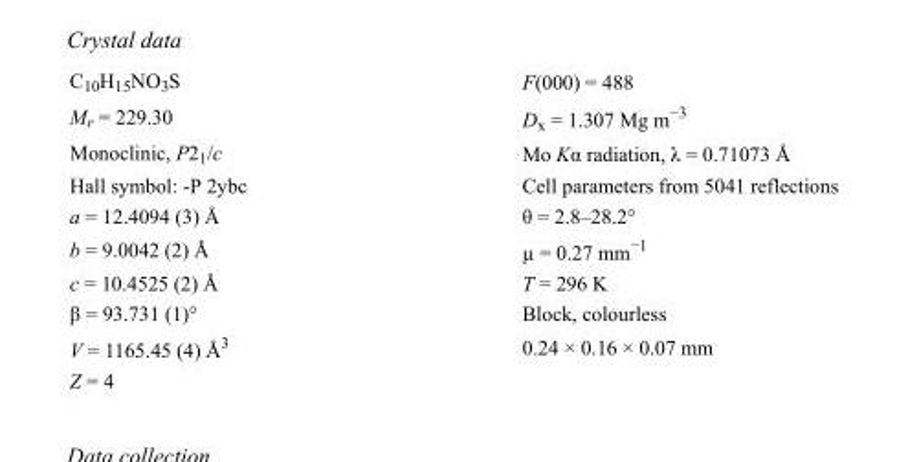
<table><tbody><tr><td>C<sub>10</sub>H<sub>15</sub>NO<sub>3</sub>S</td><td>F(000) = 488</td></tr><tr><td>M<sub>r</sub> = 229.30</td><td>D<sub>x</sub> = 1.307 Mg m<sup>−3</sup></td></tr><tr><td>Monoclinic, P2<sub>1</sub>/c</td><td>Mo Kα radiation, λ = 0.71073 Å</td></tr><tr><td>Hall symbol: -P 2ybc</td><td>Cell parameters from 5041 reflections</td></tr><tr><td>a = 12.4094 (3) Å</td><td>θ = 2.8–28.2°</td></tr><tr><td>b = 9.0042 (2) Å</td><td>µ = 0.27 mm<sup>−1</sup></td></tr><tr><td>c = 10.4525 (2) Å</td><td>T = 296 K</td></tr><tr><td>β = 93.731 (1)°</td><td>Block, colourless</td></tr><tr><td>V = 1165.45 (4) Å<sup>3</sup></td><td>0.24 × 0.16 × 0.07 mm</td></tr><tr><td>Z = 4</td><td></td></tr></tbody></table>